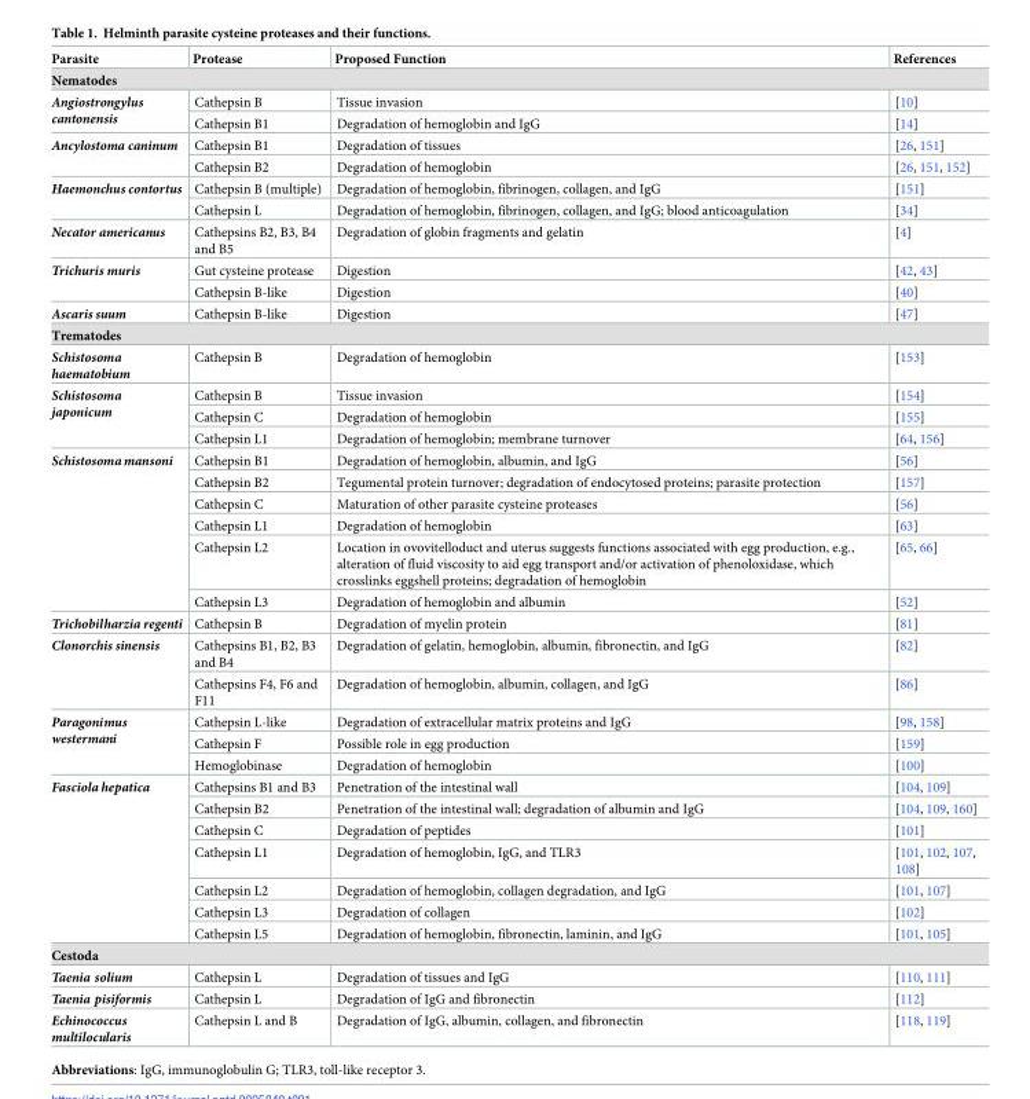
<table><thead><tr><td>Parasite</td><td>Protease</td><td>Proposed Function</td><td>References</td></tr></thead><tbody><tr><td colspan="4">Nematodes</td></tr><tr><td rowspan="2">Angiostrongylus cantonensis</td><td>Cathepsin B</td><td>Tissue invasion</td><td>[10]</td></tr><tr><td>Cathepsin B1</td><td>Degradation of hemoglobin and IgG</td><td>[14]</td></tr><tr><td rowspan="2">Ancylostoma caninum</td><td>Cathepsin B1</td><td>Degradation of tissues</td><td>[26, 151]</td></tr><tr><td>Cathepsin B2</td><td>Degradation of hemoglobin</td><td>[26, 151, 152]</td></tr><tr><td rowspan="2">Haemonchus contortus</td><td>Cathepsin B (multiple)</td><td>Degradation of hemoglobin, fibrinogen, collagen, and IgG</td><td>[151]</td></tr><tr><td>Cathepsin L</td><td>Degradation of hemoglobin, fibrinogen, collagen, and IgG; blood anticoagulation</td><td>[34]</td></tr><tr><td>Necator americanus</td><td>Cathepsins B2, B3, B4 and B5</td><td>Degradation of globin fragments and gelatin</td><td>[4]</td></tr><tr><td rowspan="2">Trichuris muris</td><td>Gut cysteine protease</td><td>Digestion</td><td>[42, 43]</td></tr><tr><td>Cathepsin B-like</td><td>Digestion</td><td>[40]</td></tr><tr><td>Ascaris suum</td><td>Cathepsin B-like</td><td>Digestion</td><td>[47]</td></tr><tr><td colspan="4">Trematodes</td></tr><tr><td>Schistosoma haematobium</td><td>Cathepsin B</td><td>Degradation of hemoglobin</td><td>[153]</td></tr><tr><td rowspan="3">Schistosoma japonicum</td><td>Cathepsin B</td><td>Tissue invasion</td><td>[154]</td></tr><tr><td>Cathepsin C</td><td>Degradation of hemoglobin</td><td>[155]</td></tr><tr><td>Cathepsin L1</td><td>Degradation of hemoglobin; membrane turnover</td><td>[64, 156]</td></tr><tr><td rowspan="6">Schistosoma mansoni</td><td>Cathepsin B1</td><td>Degradation of hemoglobin, albumin, and IgG</td><td>[56]</td></tr><tr><td>Cathepsin B2</td><td>Tegumental protein turnover; degradation of endocytosed proteins; parasite protection</td><td>[157]</td></tr><tr><td>Cathepsin C</td><td>Maturation of other parasite cysteine proteases</td><td>[56]</td></tr><tr><td>Cathepsin L1</td><td>Degradation of hemoglobin</td><td>[63]</td></tr><tr><td>Cathepsin L2</td><td>Location in ovovitelloduct and uterus suggests functions associated with egg production, e.g., alteration of fluid viscosity to aid egg transport and/or activation of phenoloxidase, which crosslinks eggshell proteins; degradation of hemoglobin</td><td>[65, 66]</td></tr><tr><td>Cathepsin L3</td><td>Degradation of hemoglobin and albumin</td><td>[52]</td></tr><tr><td>Trichobilharzia regenti</td><td>Cathepsin B</td><td>Degradation of myelin protein</td><td>[81]</td></tr><tr><td rowspan="2">Clonorchis sinensis</td><td>Cathepsins B1, B2, B3 and B4</td><td>Degradation of gelatin, hemoglobin, albumin, fibronectin, and IgG</td><td>[82]</td></tr><tr><td>Cathepsins F4, F6 and F11</td><td>Degradation of hemoglobin, albumin, collagen, and IgG</td><td>[86]</td></tr><tr><td rowspan="3">Paragonimus westermani</td><td>Cathepsin L-like</td><td>Degradation of extracellular matrix proteins and IgG</td><td>[98, 158]</td></tr><tr><td>Cathepsin F</td><td>Possible role in egg production</td><td>[159]</td></tr><tr><td>Hemoglobinase</td><td>Degradation of hemoglobin</td><td>[100]</td></tr><tr><td rowspan="7">Fasciola hepatica</td><td>Cathepsins B1 and B3</td><td>Penetration of the intestinal wall</td><td>[104, 109]</td></tr><tr><td>Cathepsin B2</td><td>Penetration of the intestinal wall; degradation of albumin and IgG</td><td>[104, 109, 160]</td></tr><tr><td>Cathepsin C</td><td>Degradation of peptides</td><td>[101]</td></tr><tr><td>Cathepsin L1</td><td>Degradation of hemoglobin, IgG, and TLR3</td><td>[101, 102, 107, 108]</td></tr><tr><td>Cathepsin L2</td><td>Degradation of hemoglobin, collagen degradation, and IgG</td><td>[101, 107]</td></tr><tr><td>Cathepsin L3</td><td>Degradation of collagen</td><td>[102]</td></tr><tr><td>Cathepsin L5</td><td>Degradation of hemoglobin, fibronectin, laminin, and IgG</td><td>[101, 105]</td></tr><tr><td colspan="4">Cestoda</td></tr><tr><td>Taenia solium</td><td>Cathepsin L</td><td>Degradation of tissues and IgG</td><td>[110, 111]</td></tr><tr><td>Taenia pisiformis</td><td>Cathepsin L</td><td>Degradation of IgG and fibronectin</td><td>[112]</td></tr><tr><td>Echinococcus multilocularis</td><td>Cathepsin L and B</td><td>Degradation of IgG, albumin, collagen, and fibronectin</td><td>[118, 119]</td></tr></tbody></table>